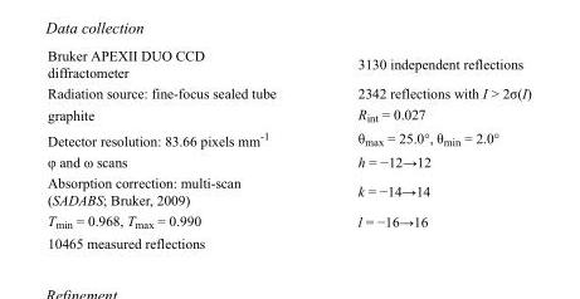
<table><tbody><tr><td>Bruker APEXII DUO CCD diffractometer</td><td>3130 independent reflections</td></tr><tr><td>Radiation source: fine-focus sealed tube</td><td>2342 reflections with I &gt; 2σ(I)</td></tr><tr><td>graphite</td><td>R<sub>int</sub> = 0.027</td></tr><tr><td>Detector resolution: 83.66 pixels mm<sup>-1</sup></td><td>θ<sub>max</sub> = 25.0°, θ<sub>min</sub> = 2.0°</td></tr><tr><td>φ and ω scans</td><td>h = −12→12</td></tr><tr><td>Absorption correction: multi-scan (SADABS; Bruker, 2009)</td><td>k = −14→14</td></tr><tr><td>T<sub>min</sub> = 0.968, T<sub>max</sub> = 0.990</td><td>l = −16→16</td></tr><tr><td>10465 measured reflections</td><td></td></tr></tbody></table>